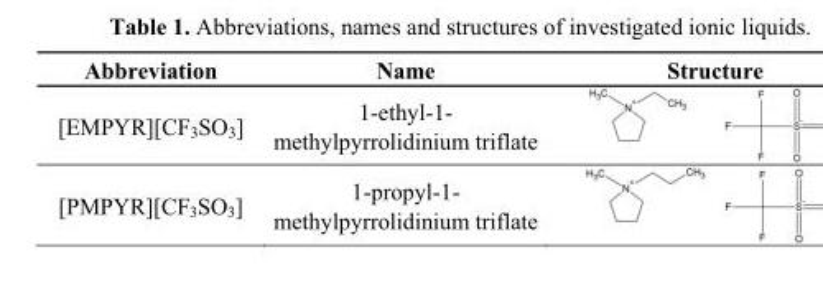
<table><thead><tr><td>Abbreviation</td><td>Name</td><td>Structure</td></tr></thead><tbody><tr><td>[EMPYR][CF<sub>3</sub>SO<sub>3</sub>]</td><td>1-ethyl-1- methylpyrrolidinium triflate</td><td></td></tr><tr><td>[PMPYR][CF<sub>3</sub>SO<sub>3</sub>]</td><td>1-propyl-1- methylpyrrolidinium triflate</td><td></td></tr></tbody></table>